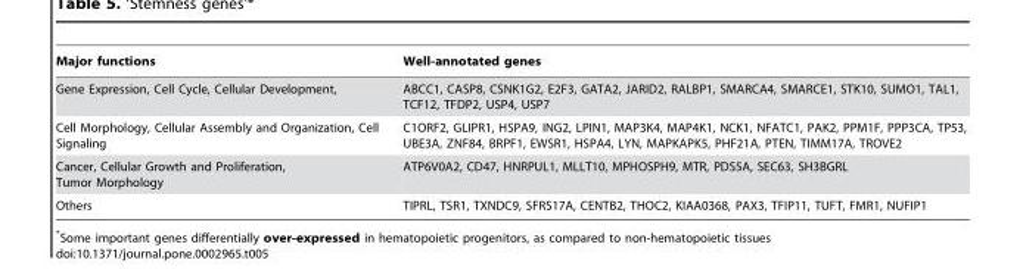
<table><thead><tr><td>Major functions</td><td>Well-annotated genes</td></tr></thead><tbody><tr><td>Gene Expression, Cell Cycle, Cellular Development,</td><td>ABCC1, CASP8, CSNK1G2, E2F3, GATA2, JARID2, RALBP1, SMARCA4, SMARCE1, STK10, SUMO1, TAL1, TCF12, TFDP2, USP4, USP7</td></tr><tr><td>Cell Morphology, Cellular Assembly and Organization, Cell Signaling</td><td>C1ORF2, GLIPR1, HSPA9, ING2, LPIN1, MAP3K4, MAP4K1, NCK1, NFATC1, PAK2, PPM1F, PPP3CA, TP53, UBE3A, ZNF84, BRPF1, EWSR1, HSPA4, LYN, MAPKAPK5, PHF21A, PTEN, TIMM17A, TROVE2</td></tr><tr><td>Cancer, Cellular Growth and Proliferation, Tumor Morphology</td><td>ATP6V0A2, CD47, HNRPUL1, MLLT10, MPHOSPH9, MTR, PDS5A, SEC63, SH3BGRL</td></tr><tr><td>Others</td><td>TIPRL, TSR1, TXNDC9, SFRS17A, CENTB2, THOC2, KIAA0368, PAX3, TFIP11, TUFT, FMR1, NUFIP1</td></tr></tbody></table>